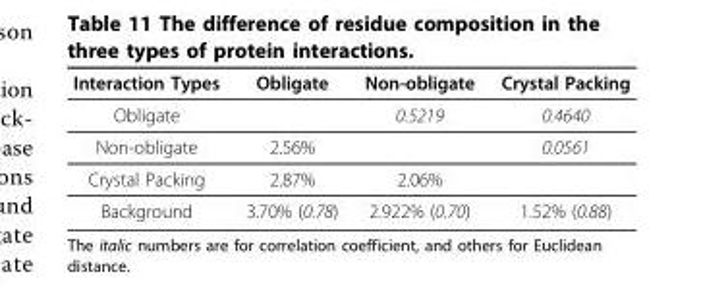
<table><thead><tr><td>Interaction Types</td><td>Obligate</td><td>Non-obligate</td><td>Crystal Packing</td></tr></thead><tbody><tr><td>Obligate</td><td></td><td>0.5219</td><td>0.4640</td></tr><tr><td>Non-obligate</td><td>2.56%</td><td></td><td>0.0561</td></tr><tr><td>Crystal Packing</td><td>2.87%</td><td>2.06%</td><td></td></tr><tr><td>Background</td><td>3.70% (0.78)</td><td>2.922% (0.70)</td><td>1.52% (0.88)</td></tr></tbody></table>